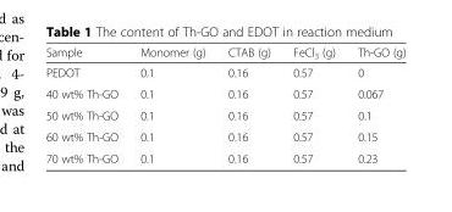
<table><thead><tr><td>Sample</td><td>Monomer (g)</td><td>CTAB (g)</td><td>FeCl<sub>3</sub> (g)</td><td>Th-GO (g)</td></tr></thead><tbody><tr><td>PEDOT</td><td>0.1</td><td>0.16</td><td>0.57</td><td>0</td></tr><tr><td>40 wt% Th-GO</td><td>0.1</td><td>0.16</td><td>0.57</td><td>0.067</td></tr><tr><td>50 wt% Th-GO</td><td>0.1</td><td>0.16</td><td>0.57</td><td>0.1</td></tr><tr><td>60 wt% Th-GO</td><td>0.1</td><td>0.16</td><td>0.57</td><td>0.15</td></tr><tr><td>70 wt% Th-GO</td><td>0.1</td><td>0.16</td><td>0.57</td><td>0.23</td></tr></tbody></table>